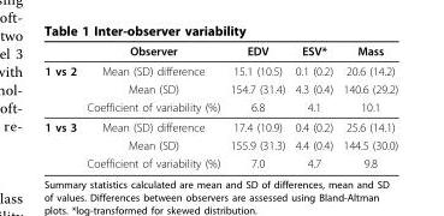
<table><thead><tr><td></td><td>Observer</td><td>EDV</td><td>ESV*</td><td>Mass</td></tr></thead><tbody><tr><td rowspan="3">1 vs 2</td><td>Mean (SD) difference</td><td>15.1 (10.5)</td><td>0.1 (0.2)</td><td>20.6 (14.2)</td></tr><tr><td>Mean (SD)</td><td>154.7 (31.4)</td><td>4.3 (0.4)</td><td>140.6 (29.2)</td></tr><tr><td>Coefficient of variability (%)</td><td>6.8</td><td>4.1</td><td>10.1</td></tr><tr><td rowspan="3">1 vs 3</td><td>Mean (SD) difference</td><td>17.4 (10.9)</td><td>0.4 (0.2)</td><td>25.6 (14.1)</td></tr><tr><td>Mean (SD)</td><td>155.9 (31.3)</td><td>4.4 (0.4)</td><td>144.5 (30.0)</td></tr><tr><td>Coefficient of variability (%)</td><td>7.0</td><td>4.7</td><td>9.8</td></tr></tbody></table>